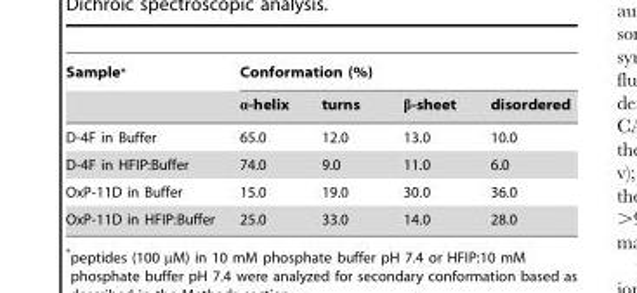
<table><thead><tr><td rowspan="2">Sample*</td><td colspan="4">Conformation (%)</td></tr><tr><td>α-helix</td><td>turns</td><td>β-sheet</td><td>disordered</td></tr></thead><tbody><tr><td>D-4F in Buffer</td><td>65.0</td><td>12.0</td><td>13.0</td><td>10.0</td></tr><tr><td>D-4F in HFIP:Buffer</td><td>74.0</td><td>9.0</td><td>11.0</td><td>6.0</td></tr><tr><td>OxP-11D in Buffer</td><td>15.0</td><td>19.0</td><td>30.0</td><td>36.0</td></tr><tr><td>OxP-11D in HFIP:Buffer</td><td>25.0</td><td>33.0</td><td>14.0</td><td>28.0</td></tr></tbody></table>